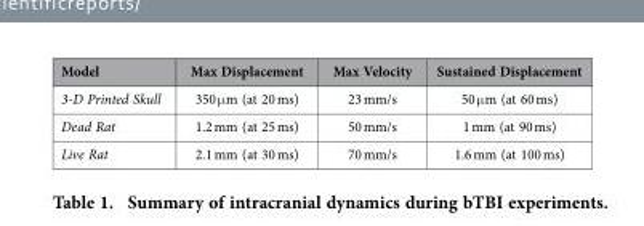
<table><thead><tr><td>Model</td><td>Max Displacement</td><td>Max Velocity</td><td>Sustained Displacement</td></tr></thead><tbody><tr><td>3-D Printed Skull</td><td>350 μ m (at 20 ms)</td><td>23 mm/s</td><td>50 μ m (at 60 ms)</td></tr><tr><td>Dead Rat</td><td>1.2 mm (at 25 ms)</td><td>50 mm/s</td><td>1 mm (at 90 ms)</td></tr><tr><td>Live Rat</td><td>2.1 mm (at 30 ms)</td><td>70 mm/s</td><td>1.6 mm (at 100 ms)</td></tr></tbody></table>